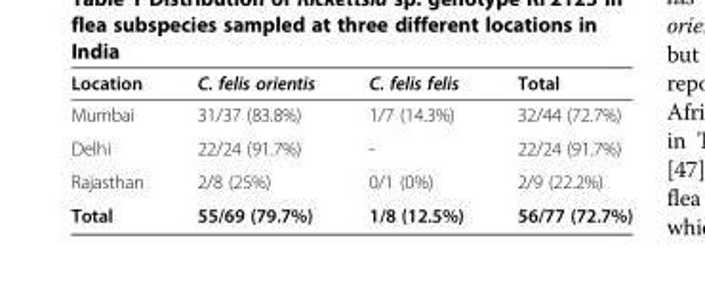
<table><thead><tr><td>Location</td><td>C. felis orientis</td><td>C. felis felis</td><td>Total</td></tr></thead><tbody><tr><td>Mumbai</td><td>31/37 (83.8%)</td><td>1/7 (14.3%)</td><td>32/44 (72.7%)</td></tr><tr><td>Delhi</td><td>22/24 (91.7%)</td><td>-</td><td>22/24 (91.7%)</td></tr><tr><td>Rajasthan</td><td>2/8 (25%)</td><td>0/1 (0%)</td><td>2/9 (22.2%)</td></tr><tr><td>Total</td><td>55/69 (79.7%)</td><td>1/8 (12.5%)</td><td>56/77 (72.7%)</td></tr></tbody></table>